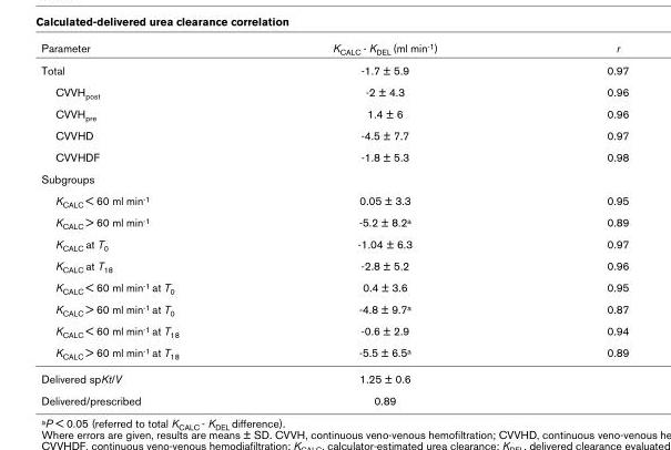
<table><thead><tr><td>Parameter</td><td>KCALC - KDEL (ml min-1)</td><td>r</td></tr></thead><tbody><tr><td>Total</td><td>-1.7 ± 5.9</td><td>0.97</td></tr><tr><td>CVVHpost</td><td>-2 ± 4.3</td><td>0.96</td></tr><tr><td>CVVHpre</td><td>1.4 ± 6</td><td>0.96</td></tr><tr><td>CVVHD</td><td>-4.5 ± 7.7</td><td>0.97</td></tr><tr><td>CVVHDF</td><td>-1.8 ± 5.3</td><td>0.98</td></tr><tr><td colspan="3">Subgroups</td></tr><tr><td>KCALC &lt; 60 ml min-1</td><td>0.05 ± 3.3</td><td>0.95</td></tr><tr><td>KCALC &gt; 60 ml min-1</td><td>-5.2 ± 8.2a</td><td>0.89</td></tr><tr><td>KCALC at T0</td><td>-1.04 ± 6.3</td><td>0.97</td></tr><tr><td>KCALC at T18</td><td>-2.8 ± 5.2</td><td>0.96</td></tr><tr><td>KCALC &lt; 60 ml min-1 at T0</td><td>0.4 ± 3.6</td><td>0.95</td></tr><tr><td>KCALC &gt; 60 ml min-1 at T0</td><td>-4.8 ± 9.7a</td><td>0.87</td></tr><tr><td>KCALC &lt; 60 ml min-1 at T18</td><td>-0.6 ± 2.9</td><td>0.94</td></tr><tr><td>KCALC &gt; 60 ml min-1 at T18</td><td>-5.5 ± 6.5a</td><td>0.89</td></tr><tr><td>Delivered spKt/V</td><td>1.25 ± 0.6</td><td></td></tr><tr><td>Delivered/prescribed</td><td>0.89</td><td></td></tr></tbody></table>